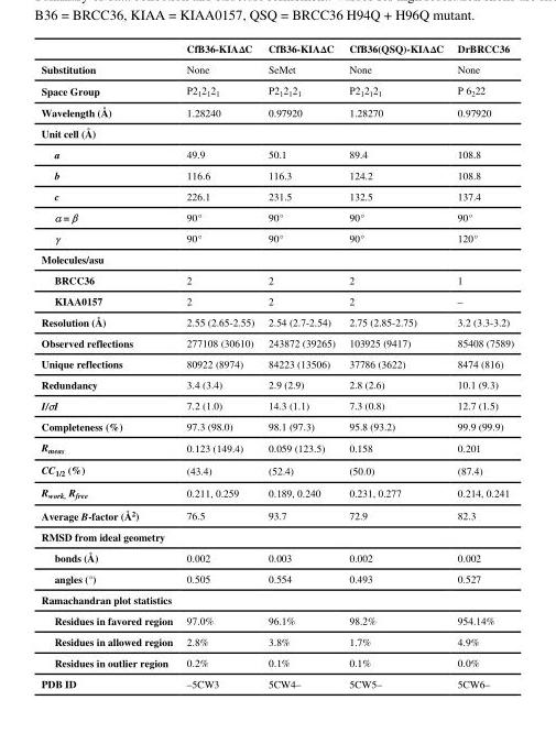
<table><thead><tr><td></td><td>CfB36-KIAΔC</td><td>CfB36-KIAΔC</td><td>CfB36(QSQ)-KIAΔC</td><td>DrBRCC36</td></tr></thead><tbody><tr><td>Substitution</td><td>None</td><td>SeMet</td><td>None</td><td>None</td></tr><tr><td>Space Group</td><td>P2<sub>1</sub>2<sub>1</sub>2<sub>1</sub></td><td>P2<sub>1</sub>2<sub>1</sub>2<sub>1</sub></td><td>P2<sub>1</sub>2<sub>1</sub>2<sub>1</sub></td><td>P 6<sub>2</sub>22</td></tr><tr><td>Wavelength (Å)</td><td>1.28240</td><td>0.97920</td><td>1.28270</td><td>0.97920</td></tr><tr><td colspan="5">Unit cell (Å)</td></tr><tr><td>a</td><td>49.9</td><td>50.1</td><td>89.4</td><td>108.8</td></tr><tr><td>b</td><td>116.6</td><td>116.3</td><td>124.2</td><td>108.8</td></tr><tr><td>c</td><td>226.1</td><td>231.5</td><td>132.5</td><td>137.4</td></tr><tr><td>α = β</td><td>90°</td><td>90°</td><td>90°</td><td>90°</td></tr><tr><td>γ</td><td>90°</td><td>90°</td><td>90°</td><td>120°</td></tr><tr><td colspan="5">Molecules/asu</td></tr><tr><td>BRCC36</td><td>2</td><td>2</td><td>2</td><td>1</td></tr><tr><td>KIAA0157</td><td>2</td><td>2</td><td>2</td><td>–</td></tr><tr><td>Resolution (Å)</td><td>2.55 (2.65-2.55)</td><td>2.54 (2.7-2.54)</td><td>2.75 (2.85-2.75)</td><td>3.2 (3.3-3.2)</td></tr><tr><td>Observed reflections</td><td>277108 (30610)</td><td>243872 (39265)</td><td>103925 (9417)</td><td>85408 (7589)</td></tr><tr><td>Unique reflections</td><td>80922 (8974)</td><td>84223 (13506)</td><td>37786 (3622)</td><td>8474 (816)</td></tr><tr><td>Redundancy</td><td>3.4 (3.4)</td><td>2.9 (2.9)</td><td>2.8 (2.6)</td><td>10.1 (9.3)</td></tr><tr><td>I/σI</td><td>7.2 (1.0)</td><td>14.3 (1.1)</td><td>7.3 (0.8)</td><td>12.7 (1.5)</td></tr><tr><td>Completeness (%)</td><td>97.3 (98.0)</td><td>98.1 (97.3)</td><td>95.8 (93.2)</td><td>99.9 (99.9)</td></tr><tr><td>R<sub>meas</sub></td><td>0.123 (149.4)</td><td>0.059 (123.5)</td><td>0.158</td><td>0.201</td></tr><tr><td>CC<sub>1/2</sub> (%)</td><td>(43.4)</td><td>(52.4)</td><td>(50.0)</td><td>(87.4)</td></tr><tr><td>R<sub>work,</sub> R<sub>free</sub></td><td>0.211, 0.259</td><td>0.189, 0.240</td><td>0.231, 0.277</td><td>0.214, 0.241</td></tr><tr><td>Average B-factor (Å<sup>2</sup>)</td><td>76.5</td><td>93.7</td><td>72.9</td><td>82.3</td></tr><tr><td colspan="5">RMSD from ideal geometry</td></tr><tr><td>bonds (Å)</td><td>0.002</td><td>0.003</td><td>0.002</td><td>0.002</td></tr><tr><td>angles (°)</td><td>0.505</td><td>0.554</td><td>0.493</td><td>0.527</td></tr><tr><td colspan="5">Ramachandran plot statistics</td></tr><tr><td>Residues in favored region</td><td>97.0%</td><td>96.1%</td><td>98.2%</td><td>954.14%</td></tr><tr><td>Residues in allowed region</td><td>2.8%</td><td>3.8%</td><td>1.7%</td><td>4.9%</td></tr><tr><td>Residues in outlier region</td><td>0.2%</td><td>0.1%</td><td>0.1%</td><td>0.0%</td></tr><tr><td>PDB ID</td><td>–5CW3</td><td>5CW4–</td><td>5CW5–</td><td>5CW6–</td></tr></tbody></table>